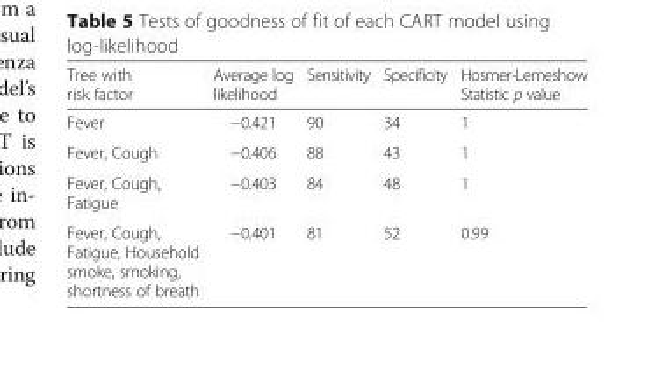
<table><thead><tr><td>Tree with risk factor</td><td>Average log likelihood</td><td>Sensitivity</td><td>Specificity</td><td>Hosmer-Lemeshow Statistic p value</td></tr></thead><tbody><tr><td>Fever</td><td>−0.421</td><td>90</td><td>34</td><td>1</td></tr><tr><td>Fever, Cough</td><td>−0.406</td><td>88</td><td>43</td><td>1</td></tr><tr><td>Fever, Cough, Fatigue</td><td>−0.403</td><td>84</td><td>48</td><td>1</td></tr><tr><td>Fever, Cough, Fatigue, Household smoke, smoking, shortness of breath</td><td>−0.401</td><td>81</td><td>52</td><td>0.99</td></tr></tbody></table>